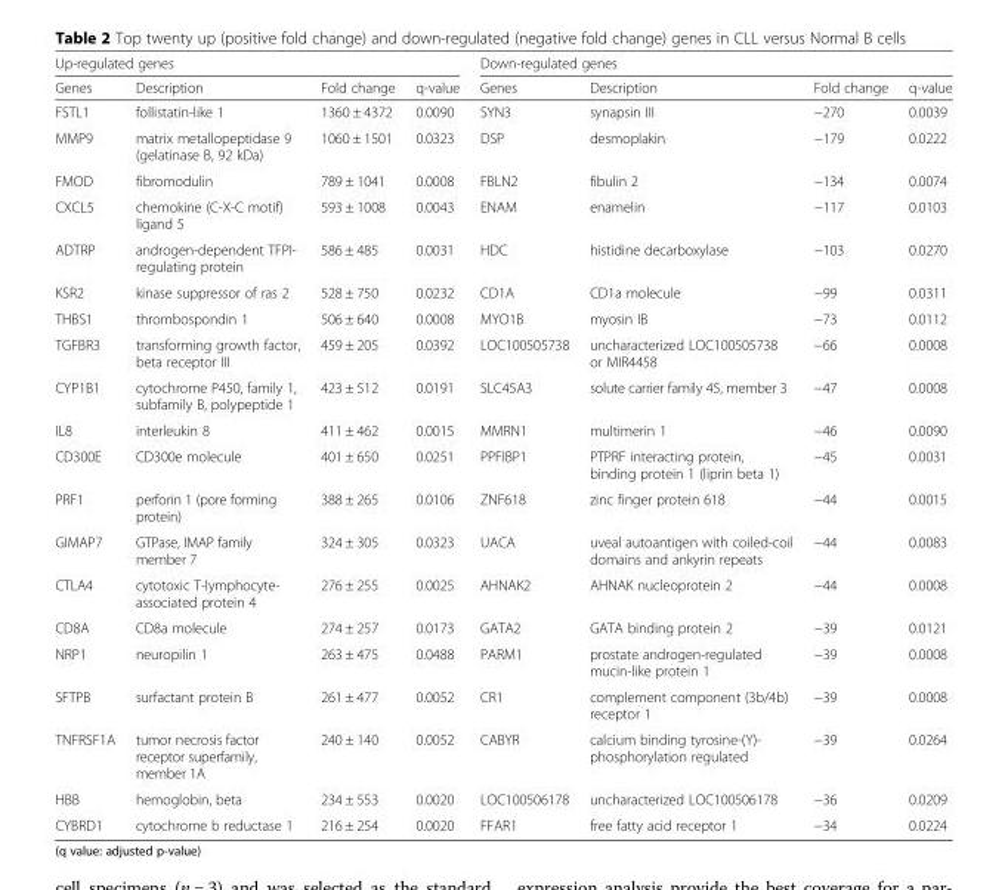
<table><thead><tr><td colspan="4">Up-regulated genes</td><td colspan="4">Down-regulated genes</td></tr><tr><td>Genes</td><td>Description</td><td>Fold change</td><td>q-value</td><td>Genes</td><td>Description</td><td>Fold change</td><td>q-value</td></tr></thead><tbody><tr><td>FSTL1</td><td>follistatin-like 1</td><td>1360 ± 4372</td><td>0.0090</td><td>SYN3</td><td>synapsin III</td><td>−270</td><td>0.0039</td></tr><tr><td>MMP9</td><td>matrix metallopeptidase 9 (gelatinase B, 92 kDa)</td><td>1060 ± 1501</td><td>0.0323</td><td>DSP</td><td>desmoplakin</td><td>−179</td><td>0.0222</td></tr><tr><td>FMOD</td><td>fibromodulin</td><td>789 ± 1041</td><td>0.0008</td><td>FBLN2</td><td>fibulin 2</td><td>−134</td><td>0.0074</td></tr><tr><td>CXCL5</td><td>chemokine (C-X-C motif) ligand 5</td><td>593 ± 1008</td><td>0.0043</td><td>ENAM</td><td>enamelin</td><td>−117</td><td>0.0103</td></tr><tr><td>ADTRP</td><td>androgen-dependent TFPI- regulating protein</td><td>586 ± 485</td><td>0.0031</td><td>HDC</td><td>histidine decarboxylase</td><td>−103</td><td>0.0270</td></tr><tr><td>KSR2</td><td>kinase suppressor of ras 2</td><td>528 ± 750</td><td>0.0232</td><td>CD1A</td><td>CD1a molecule</td><td>−99</td><td>0.0311</td></tr><tr><td>THBS1</td><td>thrombospondin 1</td><td>506 ± 640</td><td>0.0008</td><td>MYO1B</td><td>myosin IB</td><td>−73</td><td>0.0112</td></tr><tr><td>TGFBR3</td><td>transforming growth factor, beta receptor III</td><td>459 ± 205</td><td>0.0392</td><td>LOC100505738</td><td>uncharacterized LOC100505738 or MIR4458</td><td>−66</td><td>0.0008</td></tr><tr><td>CYP1B1</td><td>cytochrome P450, family 1, subfamily B, polypeptide 1</td><td>423 ± 512</td><td>0.0191</td><td>SLC45A3</td><td>solute carrier family 45, member 3</td><td>−47</td><td>0.0008</td></tr><tr><td>IL8</td><td>interleukin 8</td><td>411 ± 462</td><td>0.0015</td><td>MMRN1</td><td>multimerin 1</td><td>−46</td><td>0.0090</td></tr><tr><td>CD300E</td><td>CD300e molecule</td><td>401 ± 650</td><td>0.0251</td><td>PPFIBP1</td><td>PTPRF interacting protein, binding protein 1 (liprin beta 1)</td><td>−45</td><td>0.0031</td></tr><tr><td>PRF1</td><td>perforin 1 (pore forming protein)</td><td>388 ± 265</td><td>0.0106</td><td>ZNF618</td><td>zinc finger protein 618</td><td>−44</td><td>0.0015</td></tr><tr><td>GIMAP7</td><td>GTPase, IMAP family member 7</td><td>324 ± 305</td><td>0.0323</td><td>UACA</td><td>uveal autoantigen with coiled-coil domains and ankyrin repeats</td><td>−44</td><td>0.0083</td></tr><tr><td>CTLA4</td><td>cytotoxic T-lymphocyte- associated protein 4</td><td>276 ± 255</td><td>0.0025</td><td>AHNAK2</td><td>AHNAK nucleoprotein 2</td><td>−44</td><td>0.0008</td></tr><tr><td>CD8A</td><td>CD8a molecule</td><td>274 ± 257</td><td>0.0173</td><td>GATA2</td><td>GATA binding protein 2</td><td>−39</td><td>0.0121</td></tr><tr><td>NRP1</td><td>neuropilin 1</td><td>263 ± 475</td><td>0.0488</td><td>PARM1</td><td>prostate androgen-regulated mucin-like protein 1</td><td>−39</td><td>0.0008</td></tr><tr><td>SFTPB</td><td>surfactant protein B</td><td>261 ± 477</td><td>0.0052</td><td>CR1</td><td>complement component (3b/4b) receptor 1</td><td>−39</td><td>0.0008</td></tr><tr><td>TNFRSF1A</td><td>tumor necrosis factor receptor superfamily, member 1A</td><td>240 ± 140</td><td>0.0052</td><td>CABYR</td><td>calcium binding tyrosine-(Y)- phosphorylation regulated</td><td>−39</td><td>0.0264</td></tr><tr><td>HBB</td><td>hemoglobin, beta</td><td>234 ± 553</td><td>0.0020</td><td>LOC100506178</td><td>uncharacterized LOC100506178</td><td>−36</td><td>0.0209</td></tr><tr><td>CYBRD1</td><td>cytochrome b reductase 1</td><td>216 ± 254</td><td>0.0020</td><td>FFAR1</td><td>free fatty acid receptor 1</td><td>−34</td><td>0.0224</td></tr></tbody></table>